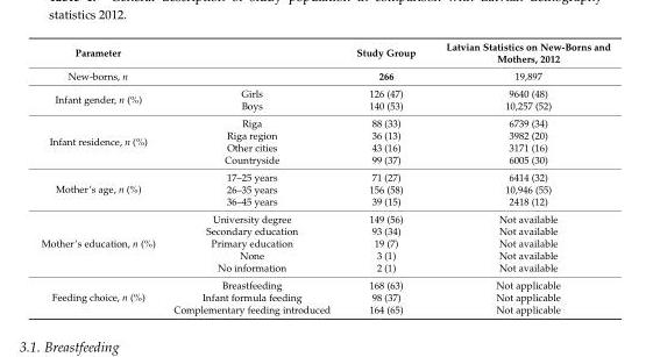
<table><thead><tr><td>Parameter</td><td></td><td>Study Group</td><td>Latvian Statistics on New-Borns and Mothers, 2012</td></tr></thead><tbody><tr><td>New-borns, n</td><td></td><td>266</td><td>19,897</td></tr><tr><td rowspan="2">Infant gender, n (%)</td><td>Girls</td><td>126 (47)</td><td>9640 (48)</td></tr><tr><td>Boys</td><td>140 (53)</td><td>10,257 (52)</td></tr><tr><td rowspan="4">Infant residence, n (%)</td><td>Riga</td><td>88 (33)</td><td>6739 (34)</td></tr><tr><td>Riga region</td><td>36 (13)</td><td>3982 (20)</td></tr><tr><td>Other cities</td><td>43 (16)</td><td>3171 (16)</td></tr><tr><td>Countryside</td><td>99 (37)</td><td>6005 (30)</td></tr><tr><td rowspan="3">Mother’s age, n (%)</td><td>17–25 years</td><td>71 (27)</td><td>6414 (32)</td></tr><tr><td>26–35 years</td><td>156 (58)</td><td>10,946 (55)</td></tr><tr><td>36–45 years</td><td>39 (15)</td><td>2418 (12)</td></tr><tr><td rowspan="5">Mother’s education, n (%)</td><td>University degree</td><td>149 (56)</td><td>Not available</td></tr><tr><td>Secondary education</td><td>93 (34)</td><td>Not available</td></tr><tr><td>Primary education</td><td>19 (7)</td><td>Not available</td></tr><tr><td>None</td><td>3 (1)</td><td>Not available</td></tr><tr><td>No information</td><td>2 (1)</td><td>Not available</td></tr><tr><td rowspan="3">Feeding choice, n (%)</td><td>Breastfeeding</td><td>168 (63)</td><td>Not applicable</td></tr><tr><td>Infant formula feeding</td><td>98 (37)</td><td>Not applicable</td></tr><tr><td>Complementary feeding introduced</td><td>164 (65)</td><td>Not applicable</td></tr></tbody></table>